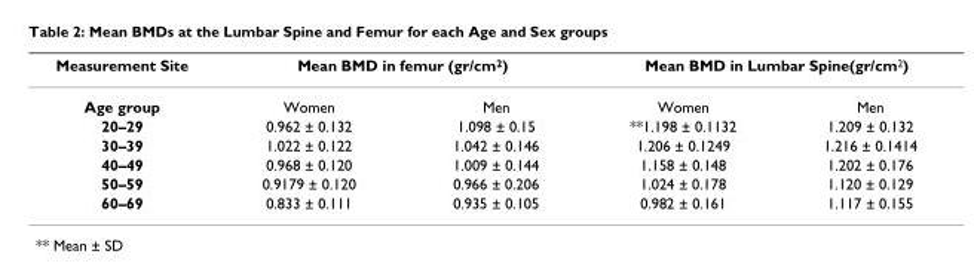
<table><thead><tr><td rowspan="2">Measurement Site Age group</td><td colspan="2">Mean BMD in femur (gr/cm<sup>2</sup>)</td><td colspan="2">Mean BMD in Lumbar Spine(gr/cm<sup>2</sup>)</td></tr><tr><td>Women</td><td>Men</td><td>Women</td><td>Men</td></tr></thead><tbody><tr><td>20–29</td><td>0.962 ± 0.132</td><td>1.098 ± 0.15</td><td>**1.198 ± 0.1132</td><td>1.209 ± 0.132</td></tr><tr><td>30–39</td><td>1.022 ± 0.122</td><td>1.042 ± 0.146</td><td>1.206 ± 0.1249</td><td>1.216 ± 0.1414</td></tr><tr><td>40–49</td><td>0.968 ± 0.120</td><td>1.009 ± 0.144</td><td>1.158 ± 0.148</td><td>1.202 ± 0.176</td></tr><tr><td>50–59</td><td>0.9179 ± 0.120</td><td>0.966 ± 0.206</td><td>1.024 ± 0.178</td><td>1.120 ± 0.129</td></tr><tr><td>60–69</td><td>0.833 ± 0.111</td><td>0.935 ± 0.105</td><td>0.982 ± 0.161</td><td>1.117 ± 0.155</td></tr></tbody></table>